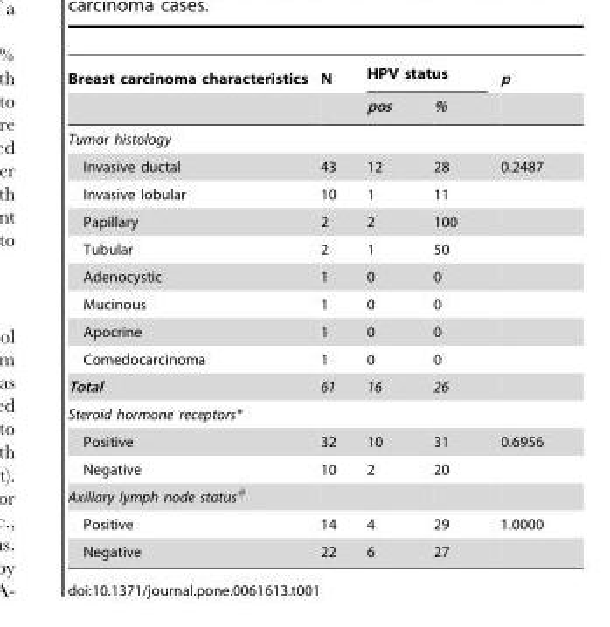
<table><thead><tr><td rowspan="2">Breast carcinoma characteristics</td><td rowspan="2">N</td><td colspan="2">HPV status</td><td rowspan="2">p</td></tr><tr><td>pos</td><td>%</td></tr></thead><tbody><tr><td colspan="5">Tumor histology</td></tr><tr><td>Invasive ductal</td><td>43</td><td>12</td><td>28</td><td>0.2487</td></tr><tr><td>Invasive lobular</td><td>10</td><td>1</td><td>11</td><td></td></tr><tr><td>Papillary</td><td>2</td><td>2</td><td>100</td><td></td></tr><tr><td>Tubular</td><td>2</td><td>1</td><td>50</td><td></td></tr><tr><td>Adenocystic</td><td>1</td><td>0</td><td>0</td><td></td></tr><tr><td>Mucinous</td><td>1</td><td>0</td><td>0</td><td></td></tr><tr><td>Apocrine</td><td>1</td><td>0</td><td>0</td><td></td></tr><tr><td>Comedocarcinoma</td><td>1</td><td>0</td><td>0</td><td></td></tr><tr><td>Total</td><td>61</td><td>16</td><td>26</td><td></td></tr><tr><td colspan="5">Steroid hormone receptors*</td></tr><tr><td>Positive</td><td>32</td><td>10</td><td>31</td><td>0.6956</td></tr><tr><td>Negative</td><td>10</td><td>2</td><td>20</td><td></td></tr><tr><td colspan="5">Axillary lymph node status<sup>#</sup></td></tr><tr><td>Positive</td><td>14</td><td>4</td><td>29</td><td>1.0000</td></tr><tr><td>Negative</td><td>22</td><td>6</td><td>27</td><td></td></tr></tbody></table>